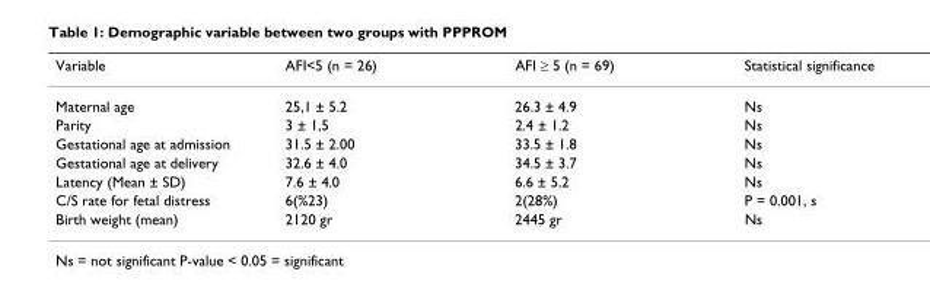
<table><thead><tr><td>Variable</td><td>AFI&lt;5 (n = 26)</td><td>AFI ≥ 5 (n = 69)</td><td>Statistical significance</td></tr></thead><tbody><tr><td>Maternal age</td><td>25,1 ± 5.2</td><td>26.3 ± 4.9</td><td>Ns</td></tr><tr><td>Parity</td><td>3 ± 1,5</td><td>2.4 ± 1.2</td><td>Ns</td></tr><tr><td>Gestational age at admission</td><td>31.5 ± 2.00</td><td>33.5 ± 1.8</td><td>Ns</td></tr><tr><td>Gestational age at delivery</td><td>32.6 ± 4.0</td><td>34.5 ± 3.7</td><td>Ns</td></tr><tr><td>Latency (Mean ± SD)</td><td>7.6 ± 4.0</td><td>6.6 ± 5.2</td><td>Ns</td></tr><tr><td>C/S rate for fetal distress</td><td>6(%23)</td><td>2(28%)</td><td>P = 0.001, s</td></tr><tr><td>Birth weight (mean)</td><td>2120 gr</td><td>2445 gr</td><td>Ns</td></tr></tbody></table>